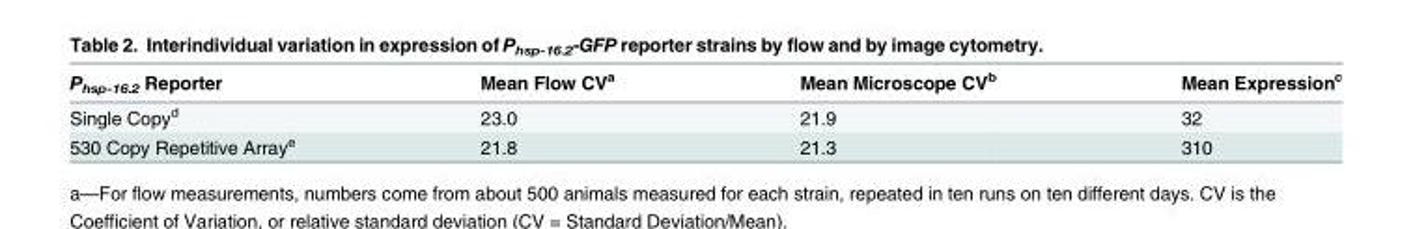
<table><thead><tr><td>P<sub>hsp-16.2</sub> Reporter</td><td>Mean Flow CV<sup>a</sup></td><td>Mean Microscope CV<sup>b</sup></td><td>Mean Expression<sup>c</sup></td></tr></thead><tbody><tr><td>Single Copy<sup>d</sup></td><td>23.0</td><td>21.9</td><td>32</td></tr><tr><td>530 Copy Repetitive Array<sup>e</sup></td><td>21.8</td><td>21.3</td><td>310</td></tr></tbody></table>